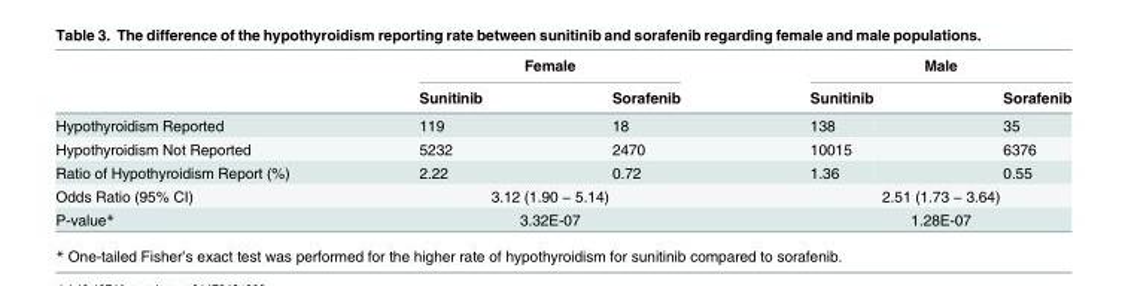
<table><thead><tr><td rowspan="2"></td><td colspan="2">Female</td><td colspan="2">Male</td></tr><tr><td>Sunitinib</td><td>Sorafenib</td><td>Sunitinib</td><td>Sorafenib</td></tr></thead><tbody><tr><td>Hypothyroidism Reported</td><td>119</td><td>18</td><td>138</td><td>35</td></tr><tr><td>Hypothyroidism Not Reported</td><td>5232</td><td>2470</td><td>10015</td><td>6376</td></tr><tr><td>Ratio of Hypothyroidism Report (%)</td><td>2.22</td><td>0.72</td><td>1.36</td><td>0.55</td></tr><tr><td>Odds Ratio (95% CI)</td><td colspan="2">3.12 (1.90 − 5.14)</td><td colspan="2">2.51 (1.73 − 3.64)</td></tr><tr><td>P-value*</td><td colspan="2">3.32E-07</td><td colspan="2">1.28E-07</td></tr></tbody></table>